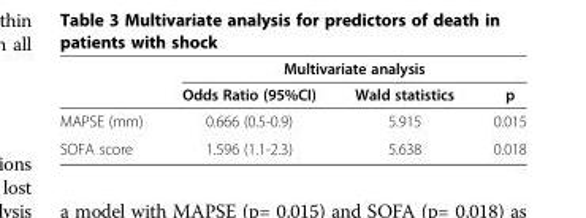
<table><thead><tr><td rowspan="2"></td><td colspan="3">Multivariate analysis</td></tr><tr><td>Odds Ratio (95%CI)</td><td>Wald statistics</td><td>p</td></tr></thead><tbody><tr><td>MAPSE (mm)</td><td>0.666 (0.5-0.9)</td><td>5.915</td><td>0.015</td></tr><tr><td>SOFA score</td><td>1.596 (1.1-2.3)</td><td>5.638</td><td>0.018</td></tr></tbody></table>